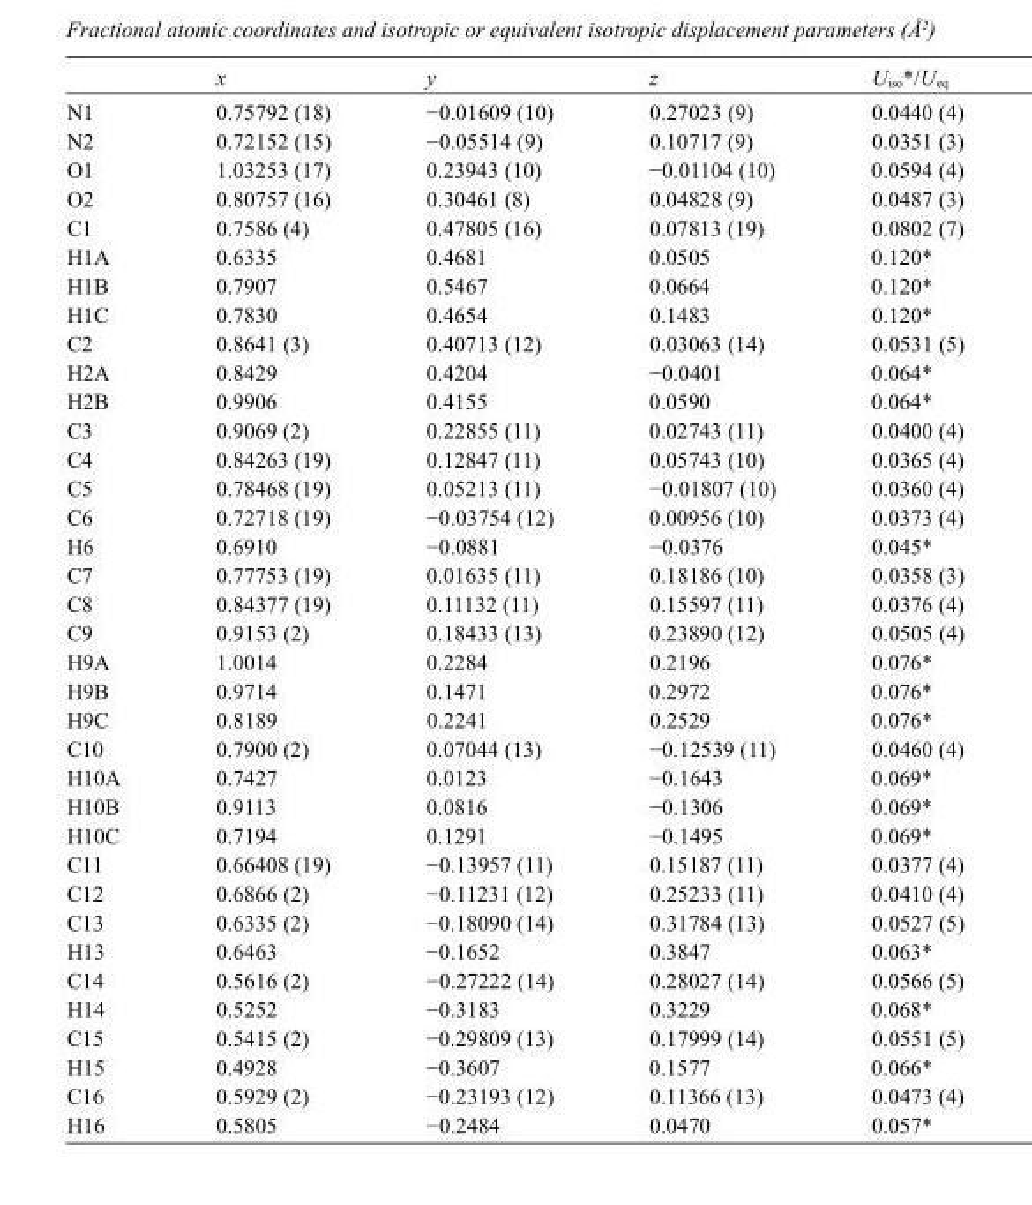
<table><thead><tr><td></td><td>x</td><td>y</td><td>z</td><td>U<sub>iso</sub>*/U<sub>eq</sub></td></tr></thead><tbody><tr><td>N1</td><td>0.75792 (18)</td><td>−0.01609 (10)</td><td>0.27023 (9)</td><td>0.0440 (4)</td></tr><tr><td>N2</td><td>0.72152 (15)</td><td>−0.05514 (9)</td><td>0.10717 (9)</td><td>0.0351 (3)</td></tr><tr><td>O1</td><td>1.03253 (17)</td><td>0.23943 (10)</td><td>−0.01104 (10)</td><td>0.0594 (4)</td></tr><tr><td>O2</td><td>0.80757 (16)</td><td>0.30461 (8)</td><td>0.04828 (9)</td><td>0.0487 (3)</td></tr><tr><td>C1</td><td>0.7586 (4)</td><td>0.47805 (16)</td><td>0.07813 (19)</td><td>0.0802 (7)</td></tr><tr><td>H1A</td><td>0.6335</td><td>0.4681</td><td>0.0505</td><td>0.120*</td></tr><tr><td>H1B</td><td>0.7907</td><td>0.5467</td><td>0.0664</td><td>0.120*</td></tr><tr><td>H1C</td><td>0.7830</td><td>0.4654</td><td>0.1483</td><td>0.120*</td></tr><tr><td>C2</td><td>0.8641 (3)</td><td>0.40713 (12)</td><td>0.03063 (14)</td><td>0.0531 (5)</td></tr><tr><td>H2A</td><td>0.8429</td><td>0.4204</td><td>−0.0401</td><td>0.064*</td></tr><tr><td>H2B</td><td>0.9906</td><td>0.4155</td><td>0.0590</td><td>0.064*</td></tr><tr><td>C3</td><td>0.9069 (2)</td><td>0.22855 (11)</td><td>0.02743 (11)</td><td>0.0400 (4)</td></tr><tr><td>C4</td><td>0.84263 (19)</td><td>0.12847 (11)</td><td>0.05743 (10)</td><td>0.0365 (4)</td></tr><tr><td>C5</td><td>0.78468 (19)</td><td>0.05213 (11)</td><td>−0.01807 (10)</td><td>0.0360 (4)</td></tr><tr><td>C6</td><td>0.72718 (19)</td><td>−0.03754 (12)</td><td>0.00956 (10)</td><td>0.0373 (4)</td></tr><tr><td>H6</td><td>0.6910</td><td>−0.0881</td><td>−0.0376</td><td>0.045*</td></tr><tr><td>C7</td><td>0.77753 (19)</td><td>0.01635 (11)</td><td>0.18186 (10)</td><td>0.0358 (3)</td></tr><tr><td>C8</td><td>0.84377 (19)</td><td>0.11132 (11)</td><td>0.15597 (11)</td><td>0.0376 (4)</td></tr><tr><td>C9</td><td>0.9153 (2)</td><td>0.18433 (13)</td><td>0.23890 (12)</td><td>0.0505 (4)</td></tr><tr><td>H9A</td><td>1.0014</td><td>0.2284</td><td>0.2196</td><td>0.076*</td></tr><tr><td>H9B</td><td>0.9714</td><td>0.1471</td><td>0.2972</td><td>0.076*</td></tr><tr><td>H9C</td><td>0.8189</td><td>0.2241</td><td>0.2529</td><td>0.076*</td></tr><tr><td>C10</td><td>0.7900 (2)</td><td>0.07044 (13)</td><td>−0.12539 (11)</td><td>0.0460 (4)</td></tr><tr><td>H10A</td><td>0.7427</td><td>0.0123</td><td>−0.1643</td><td>0.069*</td></tr><tr><td>H10B</td><td>0.9113</td><td>0.0816</td><td>−0.1306</td><td>0.069*</td></tr><tr><td>H10C</td><td>0.7194</td><td>0.1291</td><td>−0.1495</td><td>0.069*</td></tr><tr><td>C11</td><td>0.66408 (19)</td><td>−0.13957 (11)</td><td>0.15187 (11)</td><td>0.0377 (4)</td></tr><tr><td>C12</td><td>0.6866 (2)</td><td>−0.11231 (12)</td><td>0.25233 (11)</td><td>0.0410 (4)</td></tr><tr><td>C13</td><td>0.6335 (2)</td><td>−0.18090 (14)</td><td>0.31784 (13)</td><td>0.0527 (5)</td></tr><tr><td>H13</td><td>0.6463</td><td>−0.1652</td><td>0.3847</td><td>0.063*</td></tr><tr><td>C14</td><td>0.5616 (2)</td><td>−0.27222 (14)</td><td>0.28027 (14)</td><td>0.0566 (5)</td></tr><tr><td>H14</td><td>0.5252</td><td>−0.3183</td><td>0.3229</td><td>0.068*</td></tr><tr><td>C15</td><td>0.5415 (2)</td><td>−0.29809 (13)</td><td>0.17999 (14)</td><td>0.0551 (5)</td></tr><tr><td>H15</td><td>0.4928</td><td>−0.3607</td><td>0.1577</td><td>0.066*</td></tr><tr><td>C16</td><td>0.5929 (2)</td><td>−0.23193 (12)</td><td>0.11366 (13)</td><td>0.0473 (4)</td></tr><tr><td>H16</td><td>0.5805</td><td>−0.2484</td><td>0.0470</td><td>0.057*</td></tr></tbody></table>